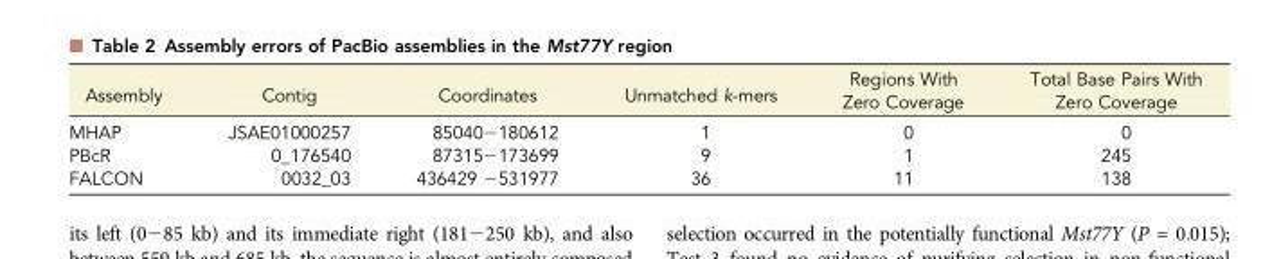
<table><thead><tr><td>Assembly</td><td>Contig</td><td>Coordinates</td><td>Unmatched k-mers</td><td>Regions With Zero Coverage</td><td>Total Base Pairs With Zero Coverage</td></tr></thead><tbody><tr><td>MHAP</td><td>JSAE01000257</td><td>85040−180612</td><td>1</td><td>0</td><td>0</td></tr><tr><td>PBcR</td><td>0_176540</td><td>87315−173699</td><td>9</td><td>1</td><td>245</td></tr><tr><td>FALCON</td><td>0032_03</td><td>436429 −531977</td><td>36</td><td>11</td><td>138</td></tr></tbody></table>